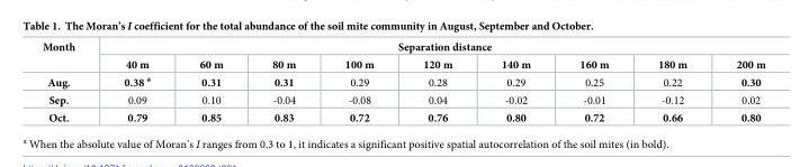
<table><thead><tr><td rowspan="2">Month</td><td colspan="9">Separation distance</td></tr><tr><td>40 m</td><td>60 m</td><td>80 m</td><td>100 m</td><td>120 m</td><td>140 m</td><td>160 m</td><td>180 m</td><td>200 m</td></tr></thead><tbody><tr><td>Aug.</td><td>0.38 <sup>a</sup></td><td>0.31</td><td>0.31</td><td>0.29</td><td>0.28</td><td>0.29</td><td>0.25</td><td>0.22</td><td>0.30</td></tr><tr><td>Sep.</td><td>0.09</td><td>0.10</td><td>-0.04</td><td>-0.08</td><td>0.04</td><td>-0.02</td><td>-0.01</td><td>-0.12</td><td>0.02</td></tr><tr><td>Oct.</td><td>0.79</td><td>0.85</td><td>0.83</td><td>0.72</td><td>0.76</td><td>0.80</td><td>0.72</td><td>0.66</td><td>0.80</td></tr></tbody></table>